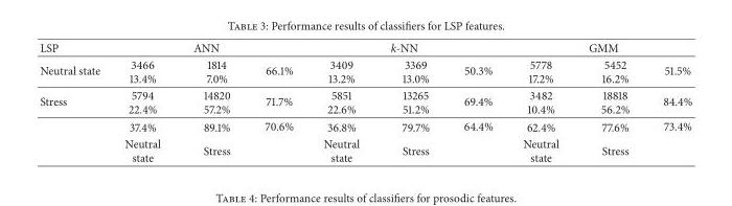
<table><thead><tr><td rowspan="2">LSP Neutral state</td><td colspan="3">ANN</td><td colspan="3">k-NN</td><td colspan="3">GMM</td></tr><tr><td>3466 13.4%</td><td>1814 7.0%</td><td>66.1%</td><td>3409 13.2%</td><td>3369 13.0%</td><td>50.3%</td><td>5778 17.2%</td><td>5452 16.2%</td><td>51.5%</td></tr></thead><tbody><tr><td rowspan="3">Stress</td><td>5794 22.4%</td><td>14820 57.2%</td><td>71.7%</td><td>5851 22.6%</td><td>13265 51.2%</td><td>69.4%</td><td>3482 10.4%</td><td>18818 56.2%</td><td>84.4%</td></tr><tr><td>37.4%</td><td>89.1%</td><td>70.6%</td><td>36.8%</td><td>79.7%</td><td>64.4%</td><td>62.4%</td><td>77.6%</td><td>73.4%</td></tr><tr><td>Neutral state</td><td>Stress</td><td></td><td>Neutral state</td><td>Stress</td><td></td><td>Neutral state</td><td>Stress</td><td></td></tr></tbody></table>